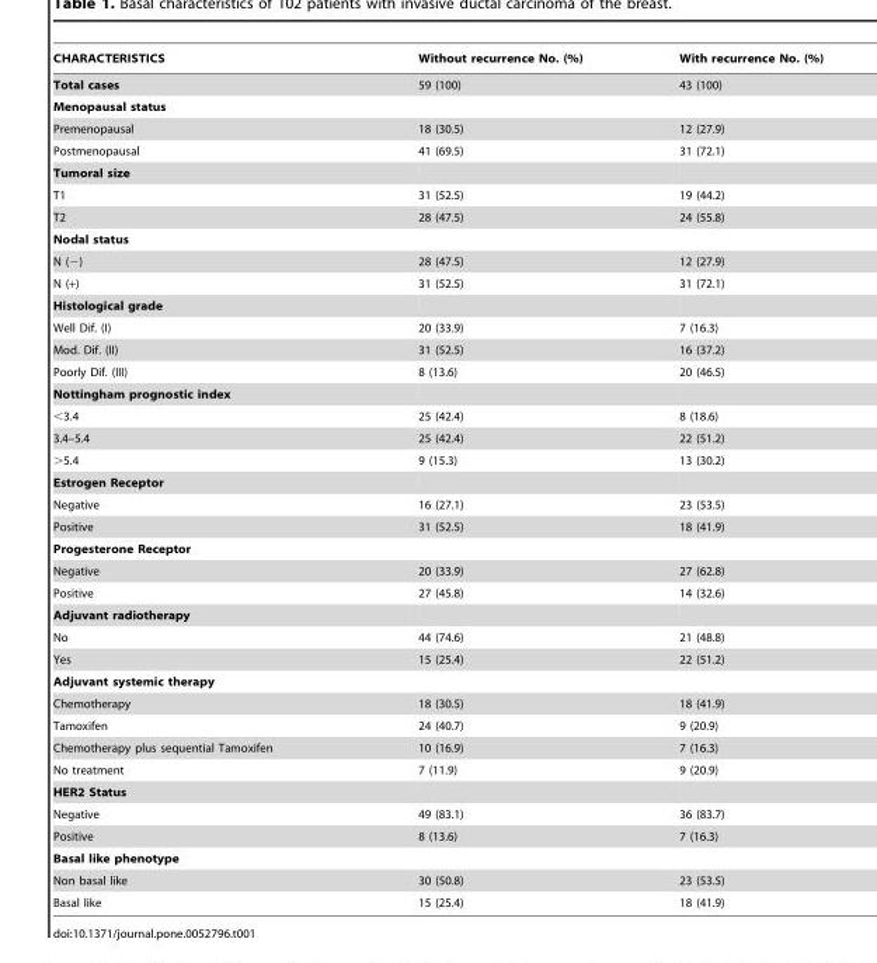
<table><thead><tr><td>CHARACTERISTICS</td><td>Without recurrence No. (%)</td><td>With recurrence No. (%)</td></tr></thead><tbody><tr><td>Total cases</td><td>59 (100)</td><td>43 (100)</td></tr><tr><td colspan="3">Menopausal status</td></tr><tr><td>Premenopausal</td><td>18 (30.5)</td><td>12 (27.9)</td></tr><tr><td>Postmenopausal</td><td>41 (69.5)</td><td>31 (72.1)</td></tr><tr><td colspan="3">Tumoral size</td></tr><tr><td>T1</td><td>31 (52.5)</td><td>19 (44.2)</td></tr><tr><td>T2</td><td>28 (47.5)</td><td>24 (55.8)</td></tr><tr><td colspan="3">Nodal status</td></tr><tr><td>N (−)</td><td>28 (47.5)</td><td>12 (27.9)</td></tr><tr><td>N (+)</td><td>31 (52.5)</td><td>31 (72.1)</td></tr><tr><td colspan="3">Histological grade</td></tr><tr><td>Well Dif. (I)</td><td>20 (33.9)</td><td>7 (16.3)</td></tr><tr><td>Mod. Dif. (II)</td><td>31 (52.5)</td><td>16 (37.2)</td></tr><tr><td>Poorly Dif. (III)</td><td>8 (13.6)</td><td>20 (46.5)</td></tr><tr><td colspan="3">Nottingham prognostic index</td></tr><tr><td>&lt;3.4</td><td>25 (42.4)</td><td>8 (18.6)</td></tr><tr><td>3.4–5.4</td><td>25 (42.4)</td><td>22 (51.2)</td></tr><tr><td>&gt;5.4</td><td>9 (15.3)</td><td>13 (30.2)</td></tr><tr><td colspan="3">Estrogen Receptor</td></tr><tr><td>Negative</td><td>16 (27.1)</td><td>23 (53.5)</td></tr><tr><td>Positive</td><td>31 (52.5)</td><td>18 (41.9)</td></tr><tr><td colspan="3">Progesterone Receptor</td></tr><tr><td>Negative</td><td>20 (33.9)</td><td>27 (62.8)</td></tr><tr><td>Positive</td><td>27 (45.8)</td><td>14 (32.6)</td></tr><tr><td colspan="3">Adjuvant radiotherapy</td></tr><tr><td>No</td><td>44 (74.6)</td><td>21 (48.8)</td></tr><tr><td>Yes</td><td>15 (25.4)</td><td>22 (51.2)</td></tr><tr><td colspan="3">Adjuvant systemic therapy</td></tr><tr><td>Chemotherapy</td><td>18 (30.5)</td><td>18 (41.9)</td></tr><tr><td>Tamoxifen</td><td>24 (40.7)</td><td>9 (20.9)</td></tr><tr><td>Chemotherapy plus sequential Tamoxifen</td><td>10 (16.9)</td><td>7 (16.3)</td></tr><tr><td>No treatment</td><td>7 (11.9)</td><td>9 (20.9)</td></tr><tr><td colspan="3">HER2 Status</td></tr><tr><td>Negative</td><td>49 (83.1)</td><td>36 (83.7)</td></tr><tr><td>Positive</td><td>8 (13.6)</td><td>7 (16.3)</td></tr><tr><td colspan="3">Basal like phenotype</td></tr><tr><td>Non basal like</td><td>30 (50.8)</td><td>23 (53.5)</td></tr><tr><td>Basal like</td><td>15 (25.4)</td><td>18 (41.9)</td></tr></tbody></table>